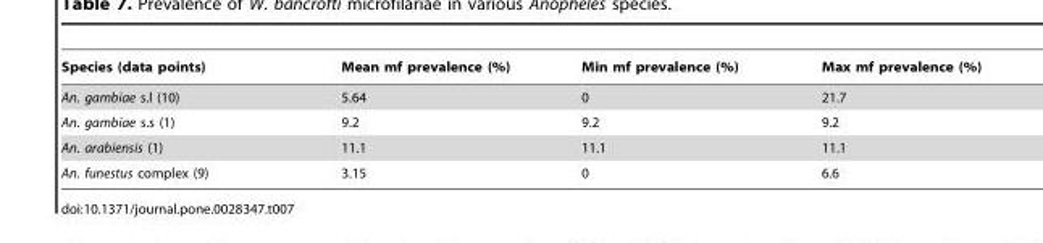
<table><thead><tr><td>Species (data points)</td><td>Mean mf prevalence (%)</td><td>Min mf prevalence (%)</td><td>Max mf prevalence (%)</td></tr></thead><tbody><tr><td>An. gambiae s.l (10)</td><td>5.64</td><td>0</td><td>21.7</td></tr><tr><td>An. gambiae s.s (1)</td><td>9.2</td><td>9.2</td><td>9.2</td></tr><tr><td>An. arabiensis (1)</td><td>11.1</td><td>11.1</td><td>11.1</td></tr><tr><td>An. funestus complex (9)</td><td>3.15</td><td>0</td><td>6.6</td></tr></tbody></table>